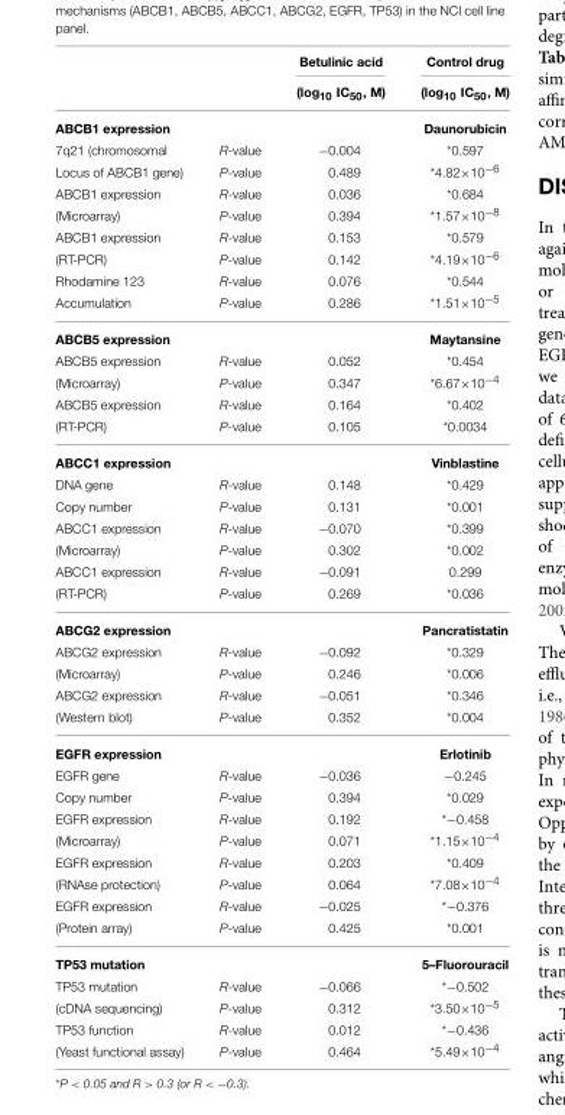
<table><thead><tr><td rowspan="2"></td><td rowspan="2"></td><td rowspan="2">Betulinic acid (log<sub>10</sub> IC<sub>50</sub>, M)</td><td rowspan="2">Control drug (log<sub>10</sub> IC<sub>50</sub>, M)</td></tr><tr></tr></thead><tbody><tr><td>ABCB1 expression</td><td></td><td></td><td>Daunorubicin</td></tr><tr><td>7q21 (chromosomal</td><td>R-value</td><td>−0.004</td><td>*0.597</td></tr><tr><td>Locus of ABCB1 gene)</td><td>P-value</td><td>0.489</td><td>*4.82×10<sup>−6</sup></td></tr><tr><td>ABCB1 expression</td><td>R-value</td><td>0.036</td><td>*0.684</td></tr><tr><td>(Microarray)</td><td>P-value</td><td>0.394</td><td>*1.57×10<sup>−8</sup></td></tr><tr><td>ABCB1 expression</td><td>R-value</td><td>0.153</td><td>*0.579</td></tr><tr><td>(RT-PCR)</td><td>P-value</td><td>0.142</td><td>*4.19×10<sup>−6</sup></td></tr><tr><td>Rhodamine 123</td><td>R-value</td><td>0.076</td><td>*0.544</td></tr><tr><td>Accumulation</td><td>P-value</td><td>0.286</td><td>*1.51×10<sup>−5</sup></td></tr><tr><td>ABCB5 expression</td><td></td><td></td><td>Maytansine</td></tr><tr><td>ABCB5 expression</td><td>R-value</td><td>0.052</td><td>*0.454</td></tr><tr><td>(Microarray)</td><td>P-value</td><td>0.347</td><td>*6.67×10<sup>−4</sup></td></tr><tr><td>ABCB5 expression</td><td>R-value</td><td>0.164</td><td>*0.402</td></tr><tr><td>(RT-PCR)</td><td>P-value</td><td>0.105</td><td>*0.0034</td></tr><tr><td>ABCC1 expression</td><td></td><td></td><td>Vinblastine</td></tr><tr><td>DNA gene</td><td>R-value</td><td>0.148</td><td>*0.429</td></tr><tr><td>Copy number</td><td>P-value</td><td>0.131</td><td>*0.001</td></tr><tr><td>ABCC1 expression</td><td>R-value</td><td>−0.070</td><td>*0.399</td></tr><tr><td>(Microarray)</td><td>P-value</td><td>0.302</td><td>*0.002</td></tr><tr><td>ABCC1 expression</td><td>R-value</td><td>−0.091</td><td>0.299</td></tr><tr><td>(RT-PCR)</td><td>P-value</td><td>0.269</td><td>*0.036</td></tr><tr><td>ABCG2 expression</td><td></td><td></td><td>Pancratistatin</td></tr><tr><td>ABCG2 expression</td><td>R-value</td><td>−0.092</td><td>*0.329</td></tr><tr><td>(Microarray)</td><td>P-value</td><td>0.246</td><td>*0.006</td></tr><tr><td>ABCG2 expression</td><td>R-value</td><td>−0.051</td><td>*0.346</td></tr><tr><td>(Western blot)</td><td>P-value</td><td>0.352</td><td>*0.004</td></tr><tr><td>EGFR expression</td><td></td><td></td><td>Erlotinib</td></tr><tr><td>EGFR gene</td><td>R-value</td><td>−0.036</td><td>−0.245</td></tr><tr><td>Copy number</td><td>P-value</td><td>0.394</td><td>*0.029</td></tr><tr><td>EGFR expression</td><td>R-value</td><td>0.192</td><td>*−0.458</td></tr><tr><td>(Microarray)</td><td>P-value</td><td>0.071</td><td>*1.15×10<sup>−4</sup></td></tr><tr><td>EGFR expression</td><td>R-value</td><td>0.203</td><td>*0.409</td></tr><tr><td>(RNAse protection)</td><td>P-value</td><td>0.064</td><td>*7.08×10<sup>−4</sup></td></tr><tr><td>EGFR expression</td><td>R-value</td><td>−0.025</td><td>*−0.376</td></tr><tr><td>(Protein array)</td><td>P-value</td><td>0.425</td><td>*0.001</td></tr><tr><td>TP53 mutation</td><td></td><td></td><td>5–Fluorouracil</td></tr><tr><td>TP53 mutation</td><td>R-value</td><td>−0.066</td><td>*−0.502</td></tr><tr><td>(cDNA sequencing)</td><td>P-value</td><td>0.312</td><td>*3.50×10<sup>−5</sup></td></tr><tr><td>TP53 function</td><td>R-value</td><td>0.012</td><td>*−0.436</td></tr><tr><td>(Yeast functional assay)</td><td>P-value</td><td>0.464</td><td>*5.49×10<sup>−4</sup></td></tr></tbody></table>